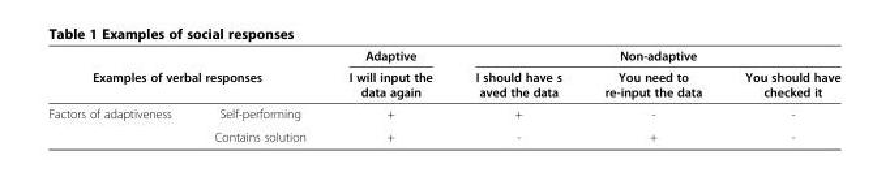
<table><thead><tr><td></td><td></td><td rowspan="2">Adaptive I will input the data again</td><td colspan="3">Non-adaptive</td></tr><tr><td colspan="2">Examples of verbal responses</td><td>I should have s aved the data</td><td>You need to re-input the data</td><td>You should have checked it</td></tr></thead><tbody><tr><td rowspan="2">Factors of adaptiveness</td><td>Self-performing</td><td>+</td><td>+</td><td>-</td><td>-</td></tr><tr><td>Contains solution</td><td>+</td><td>-</td><td>+</td><td>-</td></tr></tbody></table>